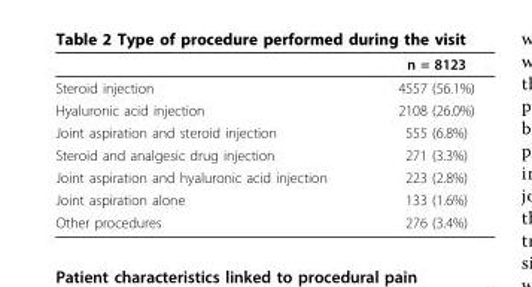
<table><thead><tr><td></td><td>n = 8123</td></tr></thead><tbody><tr><td>Steroid injection</td><td>4557 (56.1%)</td></tr><tr><td>Hyaluronic acid injection</td><td>2108 (26.0%)</td></tr><tr><td>Joint aspiration and steroid injection</td><td>555 (6.8%)</td></tr><tr><td>Steroid and analgesic drug injection</td><td>271 (3.3%)</td></tr><tr><td>Joint aspiration and hyaluronic acid injection</td><td>223 (2.8%)</td></tr><tr><td>Joint aspiration alone</td><td>133 (1.6%)</td></tr><tr><td>Other procedures</td><td>276 (3.4%)</td></tr></tbody></table>